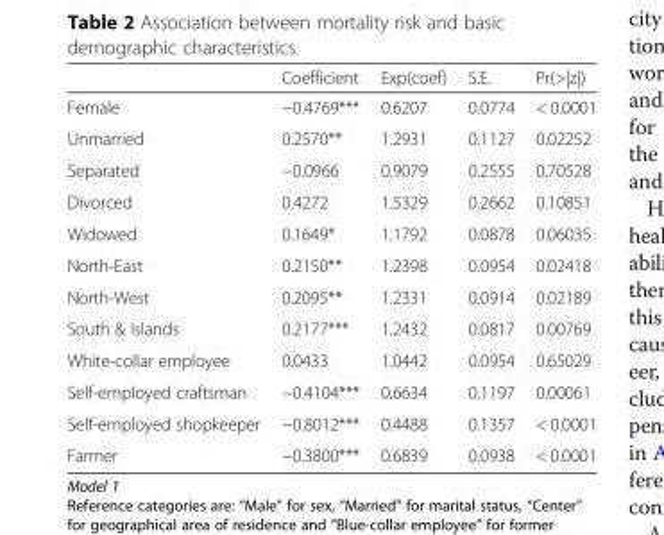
<table><thead><tr><td></td><td>Coefficient</td><td>Exp(coef)</td><td>S.E.</td><td>Pr(&gt;|z|)</td></tr></thead><tbody><tr><td>Female</td><td>−0.4769***</td><td>0.6207</td><td>0.0774</td><td>&lt; 0.0001</td></tr><tr><td>Unmarried</td><td>0.2570**</td><td>1.2931</td><td>0.1127</td><td>0.02252</td></tr><tr><td>Separated</td><td>−0.0966</td><td>0.9079</td><td>0.2555</td><td>0.70528</td></tr><tr><td>Divorced</td><td>0.4272</td><td>1.5329</td><td>0.2662</td><td>0.10851</td></tr><tr><td>Widowed</td><td>0.1649*</td><td>1.1792</td><td>0.0878</td><td>0.06035</td></tr><tr><td>North-East</td><td>0.2150**</td><td>1.2398</td><td>0.0954</td><td>0.02418</td></tr><tr><td>North-West</td><td>0.2095**</td><td>1.2331</td><td>0.0914</td><td>0.02189</td></tr><tr><td>South &amp; Islands</td><td>0.2177***</td><td>1.2432</td><td>0.0817</td><td>0.00769</td></tr><tr><td>White-collar employee</td><td>0.0433</td><td>1.0442</td><td>0.0954</td><td>0.65029</td></tr><tr><td>Self-employed craftsman</td><td>−0.4104***</td><td>0.6634</td><td>0.1197</td><td>0.00061</td></tr><tr><td>Self-employed shopkeeper</td><td>−0.8012***</td><td>0.4488</td><td>0.1357</td><td>&lt; 0.0001</td></tr><tr><td>Farmer</td><td>−0.3800***</td><td>0.6839</td><td>0.0938</td><td>&lt; 0.0001</td></tr></tbody></table>